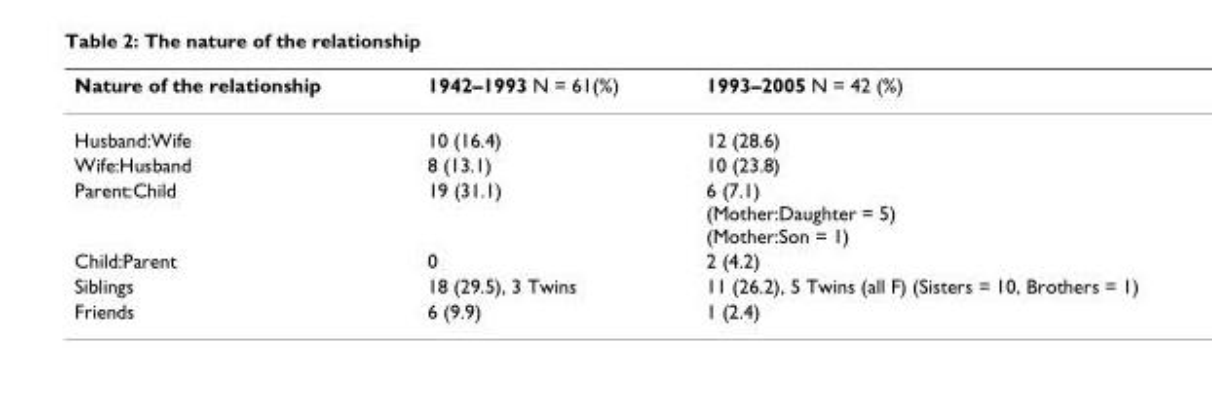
<table><thead><tr><td>Nature of the relationship</td><td>1942–1993 N = 61(%)</td><td>1993–2005 N = 42 (%)</td></tr></thead><tbody><tr><td>Husband:Wife</td><td>10 (16.4)</td><td>12 (28.6)</td></tr><tr><td>Wife:Husband</td><td>8 (13.1)</td><td>10 (23.8)</td></tr><tr><td>Parent:Child</td><td>19 (31.1)</td><td>6 (7.1) (Mother:Daughter = 5) (Mother:Son = 1)</td></tr><tr><td>Child:Parent</td><td>0</td><td>2 (4.2)</td></tr><tr><td>Siblings</td><td>18 (29.5), 3 Twins</td><td>11 (26.2), 5 Twins (all F) (Sisters = 10, Brothers = 1)</td></tr><tr><td>Friends</td><td>6 (9.9)</td><td>1 (2.4)</td></tr></tbody></table>